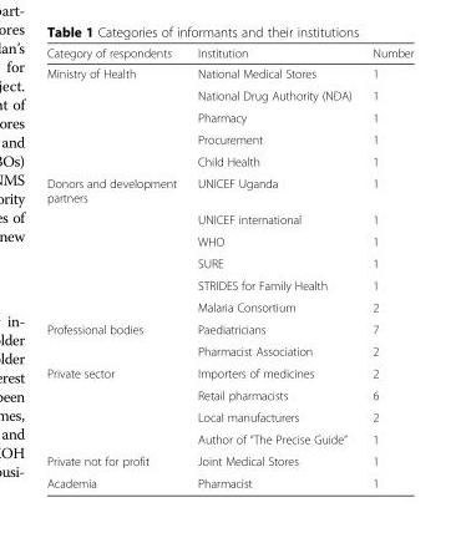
<table><thead><tr><td>Category of respondents</td><td>Institution</td><td>Number</td></tr></thead><tbody><tr><td rowspan="5">Ministry of Health</td><td>National Medical Stores</td><td>1</td></tr><tr><td>National Drug Authority (NDA)</td><td>1</td></tr><tr><td>Pharmacy</td><td>1</td></tr><tr><td>Procurement</td><td>1</td></tr><tr><td>Child Health</td><td>1</td></tr><tr><td rowspan="6">Donors and development partners</td><td>UNICEF Uganda</td><td>1</td></tr><tr><td>UNICEF international</td><td>1</td></tr><tr><td>WHO</td><td>1</td></tr><tr><td>SURE</td><td>1</td></tr><tr><td>STRIDES for Family Health</td><td>1</td></tr><tr><td>Malaria Consortium</td><td>2</td></tr><tr><td rowspan="2">Professional bodies</td><td>Paediatricians</td><td>7</td></tr><tr><td>Pharmacist Association</td><td>2</td></tr><tr><td rowspan="4">Private sector</td><td>Importers of medicines</td><td>2</td></tr><tr><td>Retail pharmacists</td><td>6</td></tr><tr><td>Local manufacturers</td><td>2</td></tr><tr><td>Author of “The Precise Guide”</td><td>1</td></tr><tr><td>Private not for profit</td><td>Joint Medical Stores</td><td>1</td></tr><tr><td>Academia</td><td>Pharmacist</td><td>1</td></tr></tbody></table>